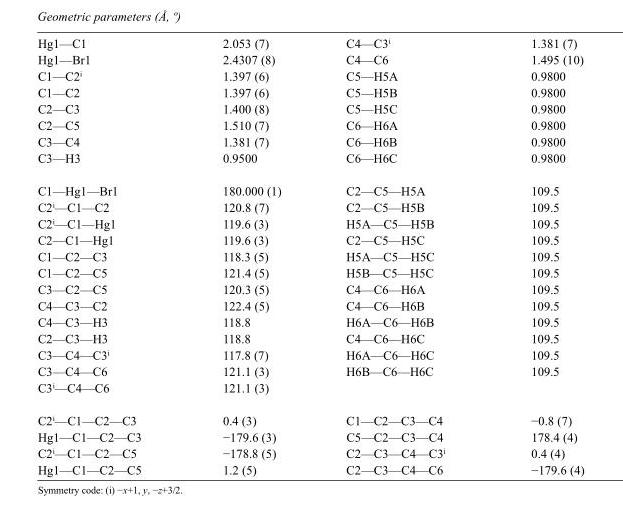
<table><tbody><tr><td>Hg1—C1</td><td>2.053 (7)</td><td>C4—C3<sup>i</sup></td><td>1.381 (7)</td></tr><tr><td>Hg1—Br1</td><td>2.4307 (8)</td><td>C4—C6</td><td>1.495 (10)</td></tr><tr><td>C1—C2<sup>i</sup></td><td>1.397 (6)</td><td>C5—H5A</td><td>0.9800</td></tr><tr><td>C1—C2</td><td>1.397 (6)</td><td>C5—H5B</td><td>0.9800</td></tr><tr><td>C2—C3</td><td>1.400 (8)</td><td>C5—H5C</td><td>0.9800</td></tr><tr><td>C2—C5</td><td>1.510 (7)</td><td>C6—H6A</td><td>0.9800</td></tr><tr><td>C3—C4</td><td>1.381 (7)</td><td>C6—H6B</td><td>0.9800</td></tr><tr><td>C3—H3</td><td>0.9500</td><td>C6—H6C</td><td>0.9800</td></tr><tr><td>C1—Hg1—Br1</td><td>180.000 (1)</td><td>C2—C5—H5A</td><td>109.5</td></tr><tr><td>C2<sup>i</sup>—C1—C2</td><td>120.8 (7)</td><td>C2—C5—H5B</td><td>109.5</td></tr><tr><td>C2<sup>i</sup>—C1—Hg1</td><td>119.6 (3)</td><td>H5A—C5—H5B</td><td>109.5</td></tr><tr><td>C2—C1—Hg1</td><td>119.6 (3)</td><td>C2—C5—H5C</td><td>109.5</td></tr><tr><td>C1—C2—C3</td><td>118.3 (5)</td><td>H5A—C5—H5C</td><td>109.5</td></tr><tr><td>C1—C2—C5</td><td>121.4 (5)</td><td>H5B—C5—H5C</td><td>109.5</td></tr><tr><td>C3—C2—C5</td><td>120.3 (5)</td><td>C4—C6—H6A</td><td>109.5</td></tr><tr><td>C4—C3—C2</td><td>122.4 (5)</td><td>C4—C6—H6B</td><td>109.5</td></tr><tr><td>C4—C3—H3</td><td>118.8</td><td>H6A—C6—H6B</td><td>109.5</td></tr><tr><td>C2—C3—H3</td><td>118.8</td><td>C4—C6—H6C</td><td>109.5</td></tr><tr><td>C3—C4—C3<sup>i</sup></td><td>117.8 (7)</td><td>H6A—C6—H6C</td><td>109.5</td></tr><tr><td>C3—C4—C6</td><td>121.1 (3)</td><td>H6B—C6—H6C</td><td>109.5</td></tr><tr><td>C3<sup>i</sup>—C4—C6</td><td>121.1 (3)</td><td></td><td></td></tr><tr><td>C2<sup>i</sup>—C1—C2—C3</td><td>0.4 (3)</td><td>C1—C2—C3—C4</td><td>−0.8 (7)</td></tr><tr><td>Hg1—C1—C2—C3</td><td>−179.6 (3)</td><td>C5—C2—C3—C4</td><td>178.4 (4)</td></tr><tr><td>C2<sup>i</sup>—C1—C2—C5</td><td>−178.8 (5)</td><td>C2—C3—C4—C3<sup>i</sup></td><td>0.4 (4)</td></tr><tr><td>Hg1—C1—C2—C5</td><td>1.2 (5)</td><td>C2—C3—C4—C6</td><td>−179.6 (4)</td></tr></tbody></table>